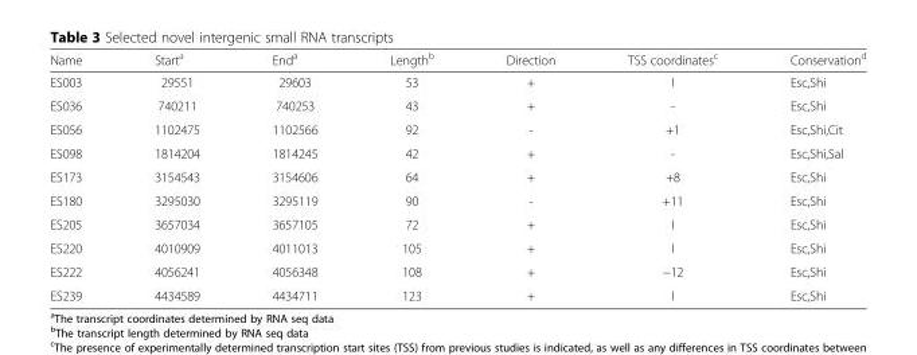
<table><thead><tr><td>Name</td><td>Start<sup>a</sup></td><td>End<sup>a</sup></td><td>Length<sup>b</sup></td><td>Direction</td><td>TSS coordinates<sup>c</sup></td><td>Conservation<sup>d</sup></td></tr></thead><tbody><tr><td>ES003</td><td>29551</td><td>29603</td><td>53</td><td>+</td><td>I</td><td>Esc,Shi</td></tr><tr><td>ES036</td><td>740211</td><td>740253</td><td>43</td><td>+</td><td>-</td><td>Esc,Shi</td></tr><tr><td>ES056</td><td>1102475</td><td>1102566</td><td>92</td><td>-</td><td>+1</td><td>Esc,Shi,Cit</td></tr><tr><td>ES098</td><td>1814204</td><td>1814245</td><td>42</td><td>+</td><td>-</td><td>Esc,Shi,Sal</td></tr><tr><td>ES173</td><td>3154543</td><td>3154606</td><td>64</td><td>+</td><td>+8</td><td>Esc,Shi</td></tr><tr><td>ES180</td><td>3295030</td><td>3295119</td><td>90</td><td>-</td><td>+11</td><td>Esc,Shi</td></tr><tr><td>ES205</td><td>3657034</td><td>3657105</td><td>72</td><td>+</td><td>I</td><td>Esc,Shi</td></tr><tr><td>ES220</td><td>4010909</td><td>4011013</td><td>105</td><td>+</td><td>I</td><td>Esc,Shi</td></tr><tr><td>ES222</td><td>4056241</td><td>4056348</td><td>108</td><td>+</td><td>−12</td><td>Esc,Shi</td></tr><tr><td>ES239</td><td>4434589</td><td>4434711</td><td>123</td><td>+</td><td>I</td><td>Esc,Shi</td></tr></tbody></table>